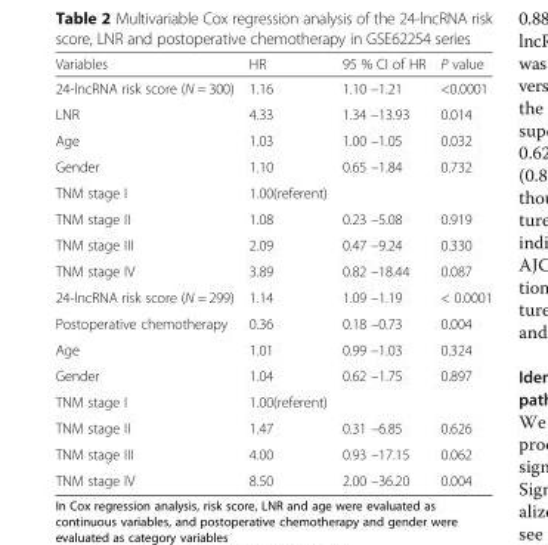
<table><thead><tr><td>Variables</td><td>HR</td><td>95 % CI of HR</td><td>P value</td></tr></thead><tbody><tr><td>24-lncRNA risk score (N = 300)</td><td>1.16</td><td>1.10 –1.21</td><td>&lt;0.0001</td></tr><tr><td>LNR</td><td>4.33</td><td>1.34 –13.93</td><td>0.014</td></tr><tr><td>Age</td><td>1.03</td><td>1.00 –1.05</td><td>0.032</td></tr><tr><td>Gender</td><td>1.10</td><td>0.65 –1.84</td><td>0.732</td></tr><tr><td>TNM stage I</td><td>1.00(referent)</td><td></td><td></td></tr><tr><td>TNM stage II</td><td>1.08</td><td>0.23 –5.08</td><td>0.919</td></tr><tr><td>TNM stage III</td><td>2.09</td><td>0.47 –9.24</td><td>0.330</td></tr><tr><td>TNM stage IV</td><td>3.89</td><td>0.82 –18.44</td><td>0.087</td></tr><tr><td>24-lncRNA risk score (N = 299)</td><td>1.14</td><td>1.09 –1.19</td><td>&lt; 0.0001</td></tr><tr><td>Postoperative chemotherapy</td><td>0.36</td><td>0.18 –0.73</td><td>0.004</td></tr><tr><td>Age</td><td>1.01</td><td>0.99 –1.03</td><td>0.324</td></tr><tr><td>Gender</td><td>1.04</td><td>0.62 –1.75</td><td>0.897</td></tr><tr><td>TNM stage I</td><td>1.00(referent)</td><td></td><td></td></tr><tr><td>TNM stage II</td><td>1.47</td><td>0.31 –6.85</td><td>0.626</td></tr><tr><td>TNM stage III</td><td>4.00</td><td>0.93 –17.15</td><td>0.062</td></tr><tr><td>TNM stage IV</td><td>8.50</td><td>2.00 –36.20</td><td>0.004</td></tr></tbody></table>